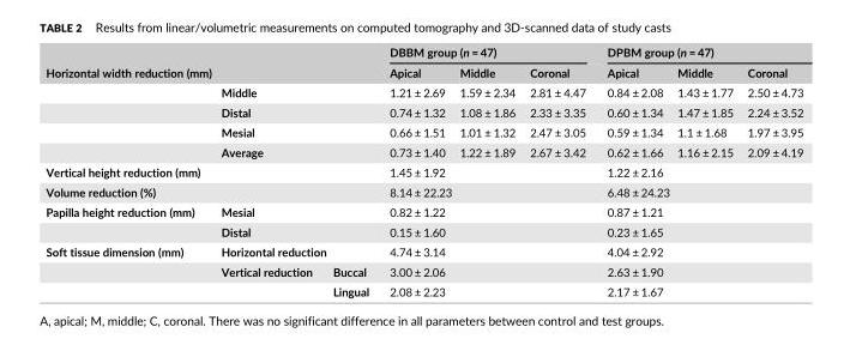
<table><thead><tr><td rowspan="2">Horizontal width reduction (mm)</td><td rowspan="2"></td><td rowspan="2"></td><td colspan="3">DBBM group (n = 47)</td><td colspan="3">DPBM group (n = 47)</td></tr><tr><td>Apical</td><td>Middle</td><td>Coronal</td><td>Apical</td><td>Middle</td><td>Coronal</td></tr></thead><tbody><tr><td></td><td colspan="2">Middle</td><td>1.21 ± 2.69</td><td>1.59 ± 2.34</td><td>2.81 ± 4.47</td><td>0.84 ± 2.08</td><td>1.43 ± 1.77</td><td>2.50 ± 4.73</td></tr><tr><td></td><td colspan="2">Distal</td><td>0.74 ± 1.32</td><td>1.08 ± 1.86</td><td>2.33 ± 3.35</td><td>0.60 ± 1.34</td><td>1.47 ± 1.85</td><td>2.24 ± 3.52</td></tr><tr><td></td><td colspan="2">Mesial</td><td>0.66 ± 1.51</td><td>1.01 ± 1.32</td><td>2.47 ± 3.05</td><td>0.59 ± 1.34</td><td>1.1 ± 1.68</td><td>1.97 ± 3.95</td></tr><tr><td></td><td colspan="2">Average</td><td>0.73 ± 1.40</td><td>1.22 ± 1.89</td><td>2.67 ± 3.42</td><td>0.62 ± 1.66</td><td>1.16 ± 2.15</td><td>2.09 ± 4.19</td></tr><tr><td colspan="3">Vertical height reduction (mm)</td><td colspan="3">1.45 ± 1.92</td><td colspan="3">1.22 ± 2.16</td></tr><tr><td colspan="3">Volume reduction (%)</td><td colspan="3">8.14 ± 22.23</td><td colspan="3">6.48 ± 24.23</td></tr><tr><td rowspan="2">Papilla height reduction (mm)</td><td colspan="2">Mesial</td><td colspan="3">0.82 ± 1.22</td><td colspan="3">0.87 ± 1.21</td></tr><tr><td colspan="2">Distal</td><td colspan="3">0.15 ± 1.60</td><td colspan="3">0.23 ± 1.65</td></tr><tr><td rowspan="3">Soft tissue dimension (mm)</td><td colspan="2">Horizontal reduction</td><td colspan="3">4.74 ± 3.14</td><td colspan="3">4.04 ± 2.92</td></tr><tr><td>Vertical reduction</td><td>Buccal</td><td colspan="3">3.00 ± 2.06</td><td colspan="3">2.63 ± 1.90</td></tr><tr><td></td><td>Lingual</td><td colspan="3">2.08 ± 2.23</td><td colspan="3">2.17 ± 1.67</td></tr></tbody></table>